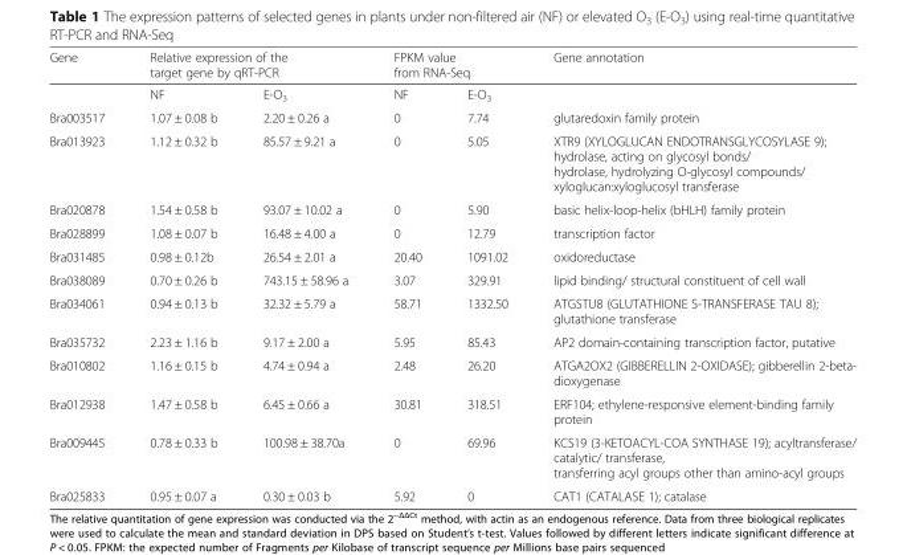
<table><thead><tr><td rowspan="2">Gene</td><td colspan="2">Relative expression of the target gene by qRT-PCR</td><td colspan="2">FPKM value from RNA-Seq</td><td rowspan="2">Gene annotation</td></tr><tr><td>NF</td><td>E-O<sub>3</sub></td><td>NF</td><td>E-O<sub>3</sub></td></tr></thead><tbody><tr><td>Bra003517</td><td>1.07 ± 0.08 b</td><td>2.20 ± 0.26 a</td><td>0</td><td>7.74</td><td>glutaredoxin family protein</td></tr><tr><td>Bra013923</td><td>1.12 ± 0.32 b</td><td>85.57 ± 9.21 a</td><td>0</td><td>5.05</td><td>XTR9 (XYLOGLUCAN ENDOTRANSGLYCOSYLASE 9); hydrolase, acting on glycosyl bonds/ hydrolase, hydrolyzing O-glycosyl compounds/ xyloglucan:xyloglucosyl transferase</td></tr><tr><td>Bra020878</td><td>1.54 ± 0.58 b</td><td>93.07 ± 10.02 a</td><td>0</td><td>5.90</td><td>basic helix-loop-helix (bHLH) family protein</td></tr><tr><td>Bra028899</td><td>1.08 ± 0.07 b</td><td>16.48 ± 4.00 a</td><td>0</td><td>12.79</td><td>transcription factor</td></tr><tr><td>Bra031485</td><td>0.98 ± 0.12b</td><td>26.54 ± 2.01 a</td><td>20.40</td><td>1091.02</td><td>oxidoreductase</td></tr><tr><td>Bra038089</td><td>0.70 ± 0.26 b</td><td>743.15 ± 58.96 a</td><td>3.07</td><td>329.91</td><td>lipid binding/ structural constituent of cell wall</td></tr><tr><td>Bra034061</td><td>0.94 ± 0.13 b</td><td>32.32 ± 5.79 a</td><td>58.71</td><td>1332.50</td><td>ATGSTU8 (GLUTATHIONE S-TRANSFERASE TAU 8); glutathione transferase</td></tr><tr><td>Bra035732</td><td>2.23 ± 1.16 b</td><td>9.17 ± 2.00 a</td><td>5.95</td><td>85.43</td><td>AP2 domain-containing transcription factor, putative</td></tr><tr><td>Bra010802</td><td>1.16 ± 0.15 b</td><td>4.74 ± 0.94 a</td><td>2.48</td><td>26.20</td><td>ATGA2OX2 (GIBBERELLIN 2-OXIDASE); gibberellin 2-beta- dioxygenase</td></tr><tr><td>Bra012938</td><td>1.47 ± 0.58 b</td><td>6.45 ± 0.66 a</td><td>30.81</td><td>318.51</td><td>ERF104; ethylene-responsive element-binding family protein</td></tr><tr><td>Bra009445</td><td>0.78 ± 0.33 b</td><td>100.98 ± 38.70a</td><td>0</td><td>69.96</td><td>KCS19 (3-KETOACYL-COA SYNTHASE 19); acyltransferase/ catalytic/ transferase, transferring acyl groups other than amino-acyl groups</td></tr><tr><td>Bra025833</td><td>0.95 ± 0.07 a</td><td>0.30 ± 0.03 b</td><td>5.92</td><td>0</td><td>CAT1 (CATALASE 1); catalase</td></tr></tbody></table>